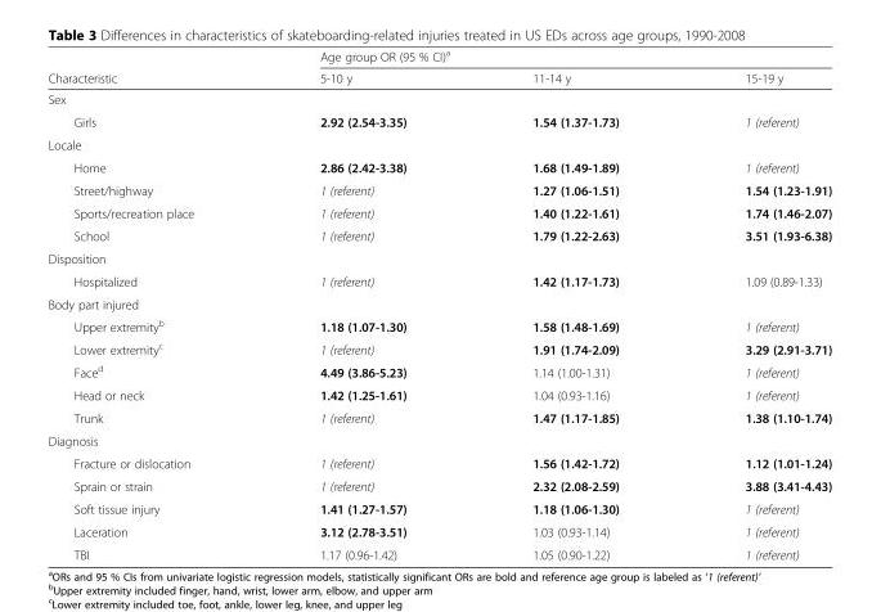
<table><thead><tr><td rowspan="2">Characteristic</td><td colspan="3">Age group OR (95 % CI)<sup>a</sup></td></tr><tr><td>5-10 y</td><td>11-14 y</td><td>15-19 y</td></tr></thead><tbody><tr><td colspan="4">Sex</td></tr><tr><td>Girls</td><td>2.92 (2.54-3.35)</td><td>1.54 (1.37-1.73)</td><td>1 (referent)</td></tr><tr><td colspan="4">Locale</td></tr><tr><td>Home</td><td>2.86 (2.42-3.38)</td><td>1.68 (1.49-1.89)</td><td>1 (referent)</td></tr><tr><td>Street/highway</td><td>1 (referent)</td><td>1.27 (1.06-1.51)</td><td>1.54 (1.23-1.91)</td></tr><tr><td>Sports/recreation place</td><td>1 (referent)</td><td>1.40 (1.22-1.61)</td><td>1.74 (1.46-2.07)</td></tr><tr><td>School</td><td>1 (referent)</td><td>1.79 (1.22-2.63)</td><td>3.51 (1.93-6.38)</td></tr><tr><td colspan="4">Disposition</td></tr><tr><td>Hospitalized</td><td>1 (referent)</td><td>1.42 (1.17-1.73)</td><td>1.09 (0.89-1.33)</td></tr><tr><td colspan="4">Body part injured</td></tr><tr><td>Upper extremity<sup>b</sup></td><td>1.18 (1.07-1.30)</td><td>1.58 (1.48-1.69)</td><td>1 (referent)</td></tr><tr><td>Lower extremity<sup>c</sup></td><td>1 (referent)</td><td>1.91 (1.74-2.09)</td><td>3.29 (2.91-3.71)</td></tr><tr><td>Face<sup>d</sup></td><td>4.49 (3.86-5.23)</td><td>1.14 (1.00-1.31)</td><td>1 (referent)</td></tr><tr><td>Head or neck</td><td>1.42 (1.25-1.61)</td><td>1.04 (0.93-1.16)</td><td>1 (referent)</td></tr><tr><td>Trunk</td><td>1 (referent)</td><td>1.47 (1.17-1.85)</td><td>1.38 (1.10-1.74)</td></tr><tr><td colspan="4">Diagnosis</td></tr><tr><td>Fracture or dislocation</td><td>1 (referent)</td><td>1.56 (1.42-1.72)</td><td>1.12 (1.01-1.24)</td></tr><tr><td>Sprain or strain</td><td>1 (referent)</td><td>2.32 (2.08-2.59)</td><td>3.88 (3.41-4.43)</td></tr><tr><td>Soft tissue injury</td><td>1.41 (1.27-1.57)</td><td>1.18 (1.06-1.30)</td><td>1 (referent)</td></tr><tr><td>Laceration</td><td>3.12 (2.78-3.51)</td><td>1.03 (0.93-1.14)</td><td>1 (referent)</td></tr><tr><td>TBI</td><td>1.17 (0.96-1.42)</td><td>1.05 (0.90-1.22)</td><td>1 (referent)</td></tr></tbody></table>